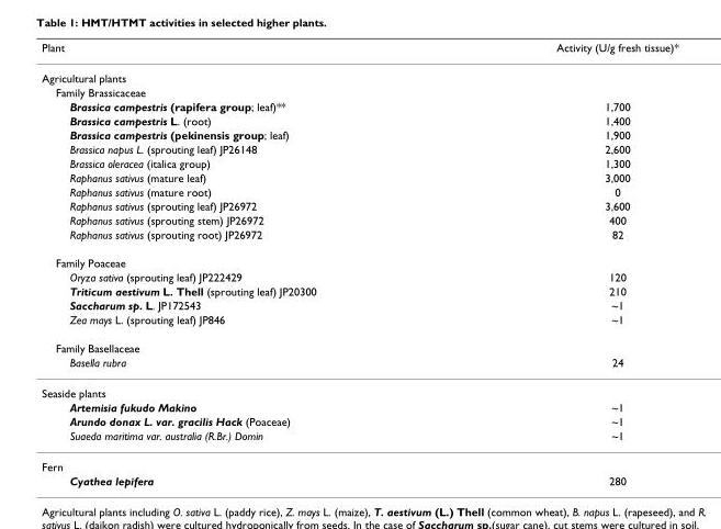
<table><thead><tr><td>Plant</td><td>Activity (U/g fresh tissue)*</td></tr></thead><tbody><tr><td colspan="2">Agricultural plants</td></tr><tr><td colspan="2">Family Brassicaceae</td></tr><tr><td>Brassica campestris (rapifera group; leaf)**</td><td>1,700</td></tr><tr><td>Brassica campestris L. (root)</td><td>1,400</td></tr><tr><td>Brassica campestris (pekinensis group; leaf)</td><td>1,900</td></tr><tr><td>Brassica napus L. (sprouting leaf) JP26148</td><td>2,600</td></tr><tr><td>Brassica oleracea (italica group)</td><td>1,300</td></tr><tr><td>Raphanus sativus (mature leaf)</td><td>3,000</td></tr><tr><td>Raphanus sativus (mature root)</td><td>0</td></tr><tr><td>Raphanus sativus (sprouting leaf) JP26972</td><td>3,600</td></tr><tr><td>Raphanus sativus (sprouting stem) JP26972</td><td>400</td></tr><tr><td>Raphanus sativus (sprouting root) JP26972</td><td>82</td></tr><tr><td colspan="2">Family Poaceae</td></tr><tr><td>Oryza sativa (sprouting leaf) JP222429</td><td>120</td></tr><tr><td>Triticum aestivum L. Thell (sprouting leaf) JP20300</td><td>210</td></tr><tr><td>Saccharum sp. L. JP172543</td><td>~1</td></tr><tr><td>Zea mays L. (sprouting leaf) JP846</td><td>~1</td></tr><tr><td colspan="2">Family Basellaceae</td></tr><tr><td>Basella rubra</td><td>24</td></tr><tr><td colspan="2">Seaside plants</td></tr><tr><td>Artemisia fukudo Makino</td><td>~1</td></tr><tr><td>Arundo donax L. var. gracilis Hack (Poaceae)</td><td>~1</td></tr><tr><td>Suaeda maritima var. australia (R.Br.) Domin</td><td>~1</td></tr><tr><td colspan="2">Fern</td></tr><tr><td>Cyathea lepifera</td><td>280</td></tr></tbody></table>